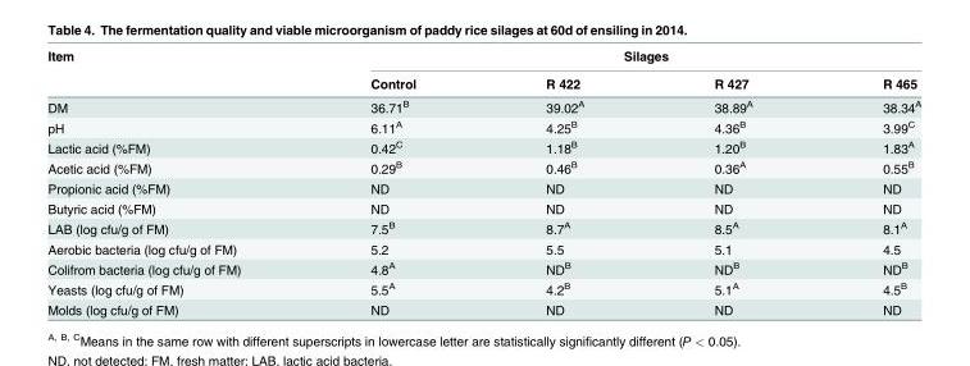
<table><thead><tr><td rowspan="2">Item</td><td colspan="4">Silages</td></tr><tr><td>Control</td><td>R 422</td><td>R 427</td><td>R 465</td></tr></thead><tbody><tr><td>DM</td><td>36.71<sup>B</sup></td><td>39.02<sup>A</sup></td><td>38.89<sup>A</sup></td><td>38.34<sup>A</sup></td></tr><tr><td>pH</td><td>6.11<sup>A</sup></td><td>4.25<sup>B</sup></td><td>4.36<sup>B</sup></td><td>3.99<sup>C</sup></td></tr><tr><td>Lactic acid (%FM)</td><td>0.42<sup>C</sup></td><td>1.18<sup>B</sup></td><td>1.20<sup>B</sup></td><td>1.83<sup>A</sup></td></tr><tr><td>Acetic acid (%FM)</td><td>0.29<sup>B</sup></td><td>0.46<sup>B</sup></td><td>0.36<sup>A</sup></td><td>0.55<sup>B</sup></td></tr><tr><td>Propionic acid (%FM)</td><td>ND</td><td>ND</td><td>ND</td><td>ND</td></tr><tr><td>Butyric acid (%FM)</td><td>ND</td><td>ND</td><td>ND</td><td>ND</td></tr><tr><td>LAB (log cfu/g of FM)</td><td>7.5<sup>B</sup></td><td>8.7<sup>A</sup></td><td>8.5<sup>A</sup></td><td>8.1<sup>A</sup></td></tr><tr><td>Aerobic bacteria (log cfu/g of FM)</td><td>5.2</td><td>5.5</td><td>5.1</td><td>4.5</td></tr><tr><td>Colifrom bacteria (log cfu/g of FM)</td><td>4.8<sup>A</sup></td><td>ND<sup>B</sup></td><td>ND<sup>B</sup></td><td>ND<sup>B</sup></td></tr><tr><td>Yeasts (log cfu/g of FM)</td><td>5.5<sup>A</sup></td><td>4.2<sup>B</sup></td><td>5.1<sup>A</sup></td><td>4.5<sup>B</sup></td></tr><tr><td>Molds (log cfu/g of FM)</td><td>ND</td><td>ND</td><td>ND</td><td>ND</td></tr></tbody></table>